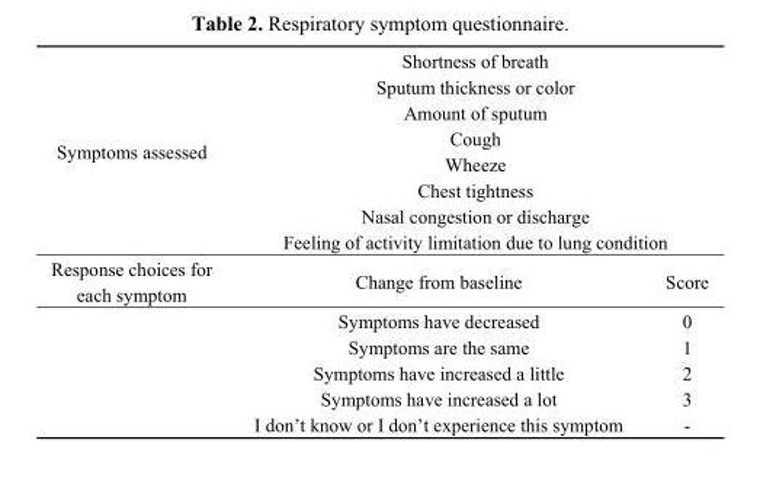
<table><tbody><tr><td rowspan="8">Symptoms assessed</td><td colspan="2">Shortness of breath</td></tr><tr><td colspan="2">Sputum thickness or color</td></tr><tr><td colspan="2">Amount of sputum</td></tr><tr><td colspan="2">Cough</td></tr><tr><td colspan="2">Wheeze</td></tr><tr><td colspan="2">Chest tightness</td></tr><tr><td colspan="2">Nasal congestion or discharge</td></tr><tr><td colspan="2">Feeling of activity limitation due to lung condition</td></tr><tr><td rowspan="6">Response choices for each symptom</td><td>Change from baseline</td><td>Score</td></tr><tr><td>Symptoms have decreased</td><td>0</td></tr><tr><td>Symptoms are the same</td><td>1</td></tr><tr><td>Symptoms have increased a little</td><td>2</td></tr><tr><td>Symptoms have increased a lot</td><td>3</td></tr><tr><td>I don’t know or I don’t experience this symptom</td><td>-</td></tr></tbody></table>